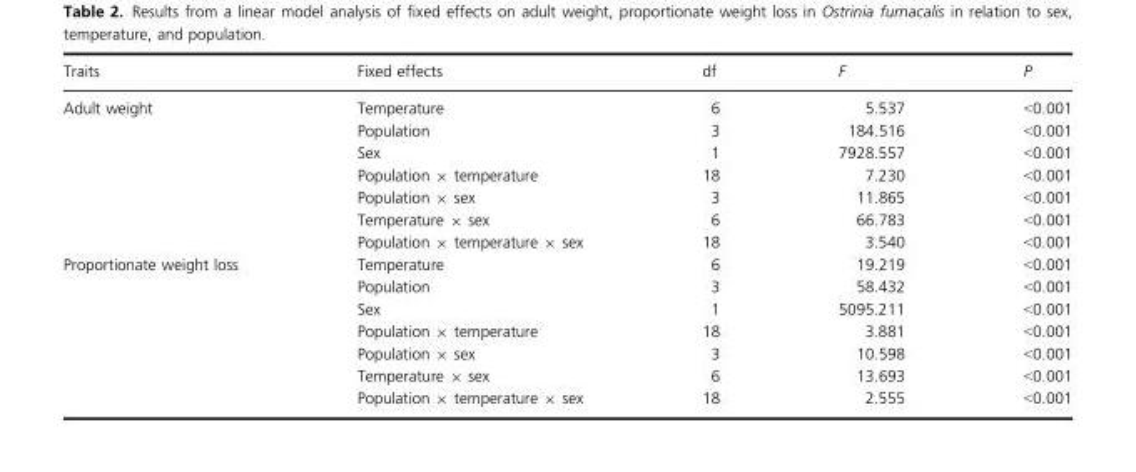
<table><thead><tr><td>Traits</td><td>Fixed effects</td><td>df</td><td>F</td><td>P</td></tr></thead><tbody><tr><td rowspan="7">Adult weight</td><td>Temperature</td><td>6</td><td>5.537</td><td>&lt;0.001</td></tr><tr><td>Population</td><td>3</td><td>184.516</td><td>&lt;0.001</td></tr><tr><td>Sex</td><td>1</td><td>7928.557</td><td>&lt;0.001</td></tr><tr><td>Population × temperature</td><td>18</td><td>7.230</td><td>&lt;0.001</td></tr><tr><td>Population × sex</td><td>3</td><td>11.865</td><td>&lt;0.001</td></tr><tr><td>Temperature × sex</td><td>6</td><td>66.783</td><td>&lt;0.001</td></tr><tr><td>Population × temperature × sex</td><td>18</td><td>3.540</td><td>&lt;0.001</td></tr><tr><td rowspan="7">Proportionate weight loss</td><td>Temperature</td><td>6</td><td>19.219</td><td>&lt;0.001</td></tr><tr><td>Population</td><td>3</td><td>58.432</td><td>&lt;0.001</td></tr><tr><td>Sex</td><td>1</td><td>5095.211</td><td>&lt;0.001</td></tr><tr><td>Population × temperature</td><td>18</td><td>3.881</td><td>&lt;0.001</td></tr><tr><td>Population × sex</td><td>3</td><td>10.598</td><td>&lt;0.001</td></tr><tr><td>Temperature × sex</td><td>6</td><td>13.693</td><td>&lt;0.001</td></tr><tr><td>Population × temperature × sex</td><td>18</td><td>2.555</td><td>&lt;0.001</td></tr></tbody></table>